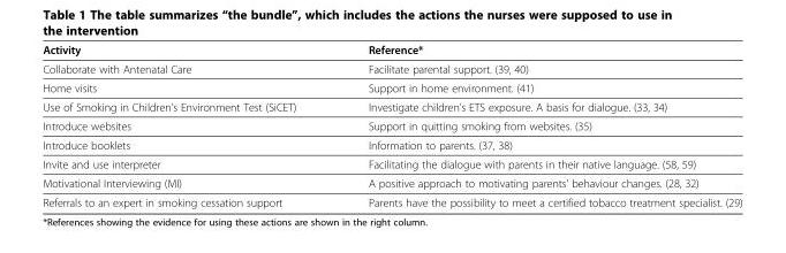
<table><thead><tr><td>Activity</td><td>Reference*</td></tr></thead><tbody><tr><td>Collaborate with Antenatal Care</td><td>Facilitate parental support. (39, 40)</td></tr><tr><td>Home visits</td><td>Support in home environment. (41)</td></tr><tr><td>Use of Smoking in Children’s Environment Test (SiCET)</td><td>Investigate children’s ETS exposure. A basis for dialogue. (33, 34)</td></tr><tr><td>Introduce websites</td><td>Support in quitting smoking from websites. (35)</td></tr><tr><td>Introduce booklets</td><td>Information to parents. (37, 38)</td></tr><tr><td>Invite and use interpreter</td><td>Facilitating the dialogue with parents in their native language. (58, 59)</td></tr><tr><td>Motivational Interviewing (MI)</td><td>A positive approach to motivating parents’ behaviour changes. (28, 32)</td></tr><tr><td>Referrals to an expert in smoking cessation support</td><td>Parents have the possibility to meet a certified tobacco treatment specialist. (29)</td></tr></tbody></table>